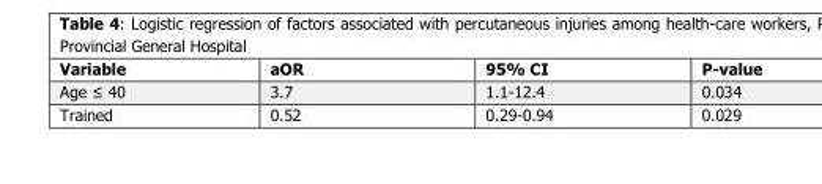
<table><thead><tr><td>Variable</td><td>aOR</td><td>95% CI</td><td>P-value</td></tr></thead><tbody><tr><td>Age ≤ 40</td><td>3.7</td><td>1.1-12.4</td><td>0.034</td></tr><tr><td>Trained</td><td>0.52</td><td>0.29-0.94</td><td>0.029</td></tr></tbody></table>